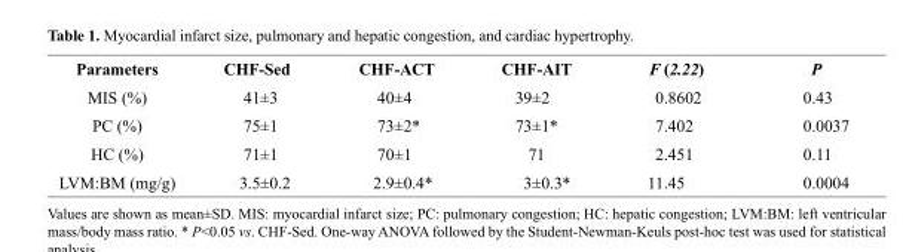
<table><thead><tr><td>Parameters</td><td>CHF-Sed</td><td>CHF-ACT</td><td>CHF-AIT</td><td>F (2.22)</td><td>P</td></tr></thead><tbody><tr><td>MIS (%)</td><td>41±3</td><td>40±4</td><td>39±2</td><td>0.8602</td><td>0.43</td></tr><tr><td>PC (%)</td><td>75±1</td><td>73±2*</td><td>73±1*</td><td>7.402</td><td>0.0037</td></tr><tr><td>HC (%)</td><td>71±1</td><td>70±1</td><td>71</td><td>2.451</td><td>0.11</td></tr><tr><td>LVM:BM (mg/g)</td><td>3.5±0.2</td><td>2.9±0.4*</td><td>3±0.3*</td><td>11.45</td><td>0.0004</td></tr></tbody></table>